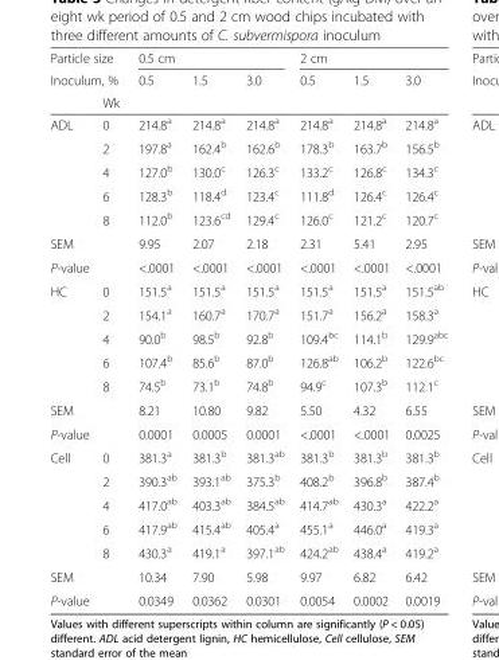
<table><thead><tr><td rowspan="2" colspan="2">Particle size Inoculum, %</td><td colspan="3">0.5 cm</td><td colspan="3">2 cm</td></tr><tr><td>0.5</td><td>1.5</td><td>3.0</td><td>0.5</td><td>1.5</td><td>3.0</td></tr><tr><td rowspan="2">ADL</td><td colspan="7">Wk</td></tr><tr><td>0</td><td>214.8<sup>a</sup></td><td>214.8<sup>a</sup></td><td>214.8<sup>a</sup></td><td>214.8<sup>a</sup></td><td>214.8<sup>a</sup></td><td>214.8<sup>a</sup></td></tr></thead><tbody><tr><td></td><td>2</td><td>197.8<sup>a</sup></td><td>162.4<sup>b</sup></td><td>162.6<sup>b</sup></td><td>178.3<sup>b</sup></td><td>163.7<sup>b</sup></td><td>156.5<sup>b</sup></td></tr><tr><td></td><td>4</td><td>127.0<sup>b</sup></td><td>130.0<sup>c</sup></td><td>126.3<sup>c</sup></td><td>133.2<sup>c</sup></td><td>126.8<sup>c</sup></td><td>134.3<sup>c</sup></td></tr><tr><td></td><td>6</td><td>128.3<sup>b</sup></td><td>118.4<sup>d</sup></td><td>123.4<sup>c</sup></td><td>111.8<sup>d</sup></td><td>126.4<sup>c</sup></td><td>126.4<sup>c</sup></td></tr><tr><td></td><td>8</td><td>112.0<sup>b</sup></td><td>123.6<sup>cd</sup></td><td>129.4<sup>c</sup></td><td>126.0<sup>c</sup></td><td>121.2<sup>c</sup></td><td>120.7<sup>c</sup></td></tr><tr><td colspan="2">SEM</td><td>9.95</td><td>2.07</td><td>2.18</td><td>2.31</td><td>5.41</td><td>2.95</td></tr><tr><td colspan="2">P-value</td><td>&lt;.0001</td><td>&lt;.0001</td><td>&lt;.0001</td><td>&lt;.0001</td><td>&lt;.0001</td><td>&lt;.0001</td></tr><tr><td rowspan="5">HC</td><td>0</td><td>151.5<sup>a</sup></td><td>151.5<sup>a</sup></td><td>151.5<sup>a</sup></td><td>151.5<sup>a</sup></td><td>151.5<sup>a</sup></td><td>151.5<sup>ab</sup></td></tr><tr><td>2</td><td>154.1<sup>a</sup></td><td>160.7<sup>a</sup></td><td>170.7<sup>a</sup></td><td>151.7<sup>a</sup></td><td>156.2<sup>a</sup></td><td>158.3<sup>a</sup></td></tr><tr><td>4</td><td>90.0<sup>b</sup></td><td>98.5<sup>b</sup></td><td>92.8<sup>b</sup></td><td>109.4<sup>bc</sup></td><td>114.1<sup>b</sup></td><td>129.9<sup>abc</sup></td></tr><tr><td>6</td><td>107.4<sup>b</sup></td><td>85.6<sup>b</sup></td><td>87.0<sup>b</sup></td><td>126.8<sup>ab</sup></td><td>106.2<sup>b</sup></td><td>122.6<sup>bc</sup></td></tr><tr><td>8</td><td>74.5<sup>b</sup></td><td>73.1<sup>b</sup></td><td>74.8<sup>b</sup></td><td>94.9<sup>c</sup></td><td>107.3<sup>b</sup></td><td>112.1<sup>c</sup></td></tr><tr><td colspan="2">SEM</td><td>8.21</td><td>10.80</td><td>9.82</td><td>5.50</td><td>4.32</td><td>6.55</td></tr><tr><td colspan="2">P-value</td><td>0.0001</td><td>0.0005</td><td>0.0001</td><td>&lt;.0001</td><td>&lt;.0001</td><td>0.0025</td></tr><tr><td rowspan="5">Cell</td><td>0</td><td>381.3<sup>a</sup></td><td>381.3<sup>b</sup></td><td>381.3<sup>ab</sup></td><td>381.3<sup>b</sup></td><td>381.3<sup>b</sup></td><td>381.3<sup>b</sup></td></tr><tr><td>2</td><td>390.3<sup>ab</sup></td><td>393.1<sup>ab</sup></td><td>375.3<sup>b</sup></td><td>408.2<sup>b</sup></td><td>396.8<sup>b</sup></td><td>387.4<sup>b</sup></td></tr><tr><td>4</td><td>417.0<sup>ab</sup></td><td>403.3<sup>ab</sup></td><td>384.5<sup>ab</sup></td><td>414.7<sup>ab</sup></td><td>430.3<sup>a</sup></td><td>422.2<sup>a</sup></td></tr><tr><td>6</td><td>417.9<sup>ab</sup></td><td>415.4<sup>ab</sup></td><td>405.4<sup>a</sup></td><td>455.1<sup>a</sup></td><td>446.0<sup>a</sup></td><td>419.3<sup>a</sup></td></tr><tr><td>8</td><td>430.3<sup>a</sup></td><td>419.1<sup>a</sup></td><td>397.1<sup>ab</sup></td><td>424.2<sup>ab</sup></td><td>438.4<sup>a</sup></td><td>419.2<sup>a</sup></td></tr><tr><td colspan="2">SEM</td><td>10.34</td><td>7.90</td><td>5.98</td><td>9.97</td><td>6.82</td><td>6.42</td></tr><tr><td colspan="2">P-value</td><td>0.0349</td><td>0.0362</td><td>0.0301</td><td>0.0054</td><td>0.0002</td><td>0.0019</td></tr></tbody></table>